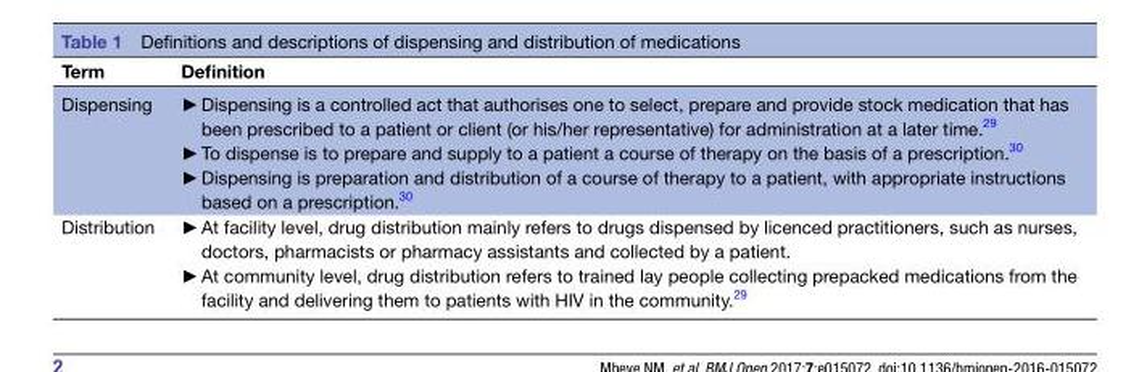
<table><thead><tr><td>Term</td><td>Definition</td></tr></thead><tbody><tr><td>Dispensing</td><td>►Dispensing is a controlled act that authorises one to select, prepare and provide stock medication that has been prescribed to a patient or client (or his/her representative) for administration at a later time.29 ►To dispense is to prepare and supply to a patient a course of therapy on the basis of a prescription.30 ►Dispensing is preparation and distribution of a course of therapy to a patient, with appropriate instructions based on a prescription.30</td></tr><tr><td>Distribution</td><td>►At facility level, drug distribution mainly refers to drugs dispensed by licenced practitioners, such as nurses, doctors, pharmacists or pharmacy assistants and collected by a patient. ►At community level, drug distribution refers to trained lay people collecting prepacked medications from the facility and delivering them to patients with HIV in the community.29</td></tr></tbody></table>